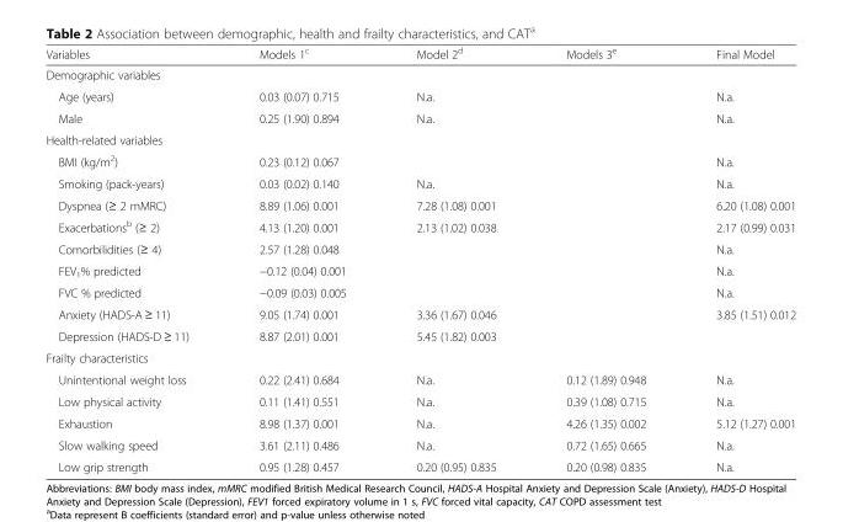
<table><thead><tr><td>Variables</td><td>Models 1<sup>c</sup></td><td>Model 2<sup>d</sup></td><td>Models 3<sup>e</sup></td><td>Final Model</td></tr></thead><tbody><tr><td colspan="5">Demographic variables</td></tr><tr><td>Age (years)</td><td>0.03 (0.07) 0.715</td><td>N.a.</td><td></td><td>N.a.</td></tr><tr><td>Male</td><td>0.25 (1.90) 0.894</td><td>N.a.</td><td></td><td>N.a.</td></tr><tr><td colspan="5">Health-related variables</td></tr><tr><td>BMI (kg/m<sup>2</sup>)</td><td>0.23 (0.12) 0.067</td><td></td><td></td><td>N.a.</td></tr><tr><td>Smoking (pack-years)</td><td>0.03 (0.02) 0.140</td><td>N.a.</td><td></td><td>N.a.</td></tr><tr><td>Dyspnea (≥ 2 mMRC)</td><td>8.89 (1.06) 0.001</td><td>7.28 (1.08) 0.001</td><td></td><td>6.20 (1.08) 0.001</td></tr><tr><td>Exacerbations<sup>b</sup> (≥ 2)</td><td>4.13 (1.20) 0.001</td><td>2.13 (1.02) 0.038</td><td></td><td>2.17 (0.99) 0.031</td></tr><tr><td>Comorbilidities (≥ 4)</td><td>2.57 (1.28) 0.048</td><td></td><td></td><td>N.a.</td></tr><tr><td>FEV<sub>1</sub>% predicted</td><td>−0.12 (0.04) 0.001</td><td></td><td></td><td>N.a.</td></tr><tr><td>FVC % predicted</td><td>−0.09 (0.03) 0.005</td><td></td><td></td><td>N.a.</td></tr><tr><td>Anxiety (HADS-A ≥ 11)</td><td>9.05 (1.74) 0.001</td><td>3.36 (1.67) 0.046</td><td></td><td>3.85 (1.51) 0.012</td></tr><tr><td>Depression (HADS-D ≥ 11)</td><td>8.87 (2.01) 0.001</td><td>5.45 (1.82) 0.003</td><td></td><td></td></tr><tr><td colspan="5">Frailty characteristics</td></tr><tr><td>Unintentional weight loss</td><td>0.22 (2.41) 0.684</td><td>N.a.</td><td>0.12 (1.89) 0.948</td><td>N.a.</td></tr><tr><td>Low physical activity</td><td>0.11 (1.41) 0.551</td><td>N.a.</td><td>0.39 (1.08) 0.715</td><td>N.a.</td></tr><tr><td>Exhaustion</td><td>8.98 (1.37) 0.001</td><td>N.a.</td><td>4.26 (1.35) 0.002</td><td>5.12 (1.27) 0.001</td></tr><tr><td>Slow walking speed</td><td>3.61 (2.11) 0.486</td><td>N.a.</td><td>0.72 (1.65) 0.665</td><td>N.a.</td></tr><tr><td>Low grip strength</td><td>0.95 (1.28) 0.457</td><td>0.20 (0.95) 0.835</td><td>0.20 (0.98) 0.835</td><td>N.a.</td></tr></tbody></table>